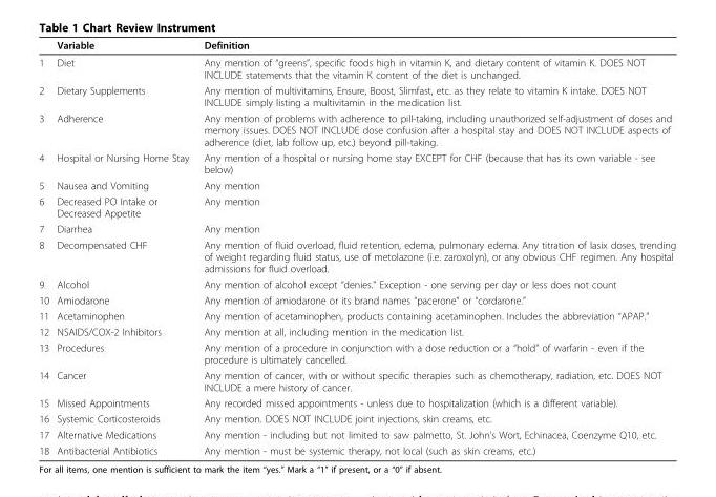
<table><thead><tr><td></td><td>Variable</td><td>Definition</td></tr></thead><tbody><tr><td>1</td><td>Diet</td><td>Any mention of “greens”, specific foods high in vitamin K, and dietary content of vitamin K. DOES NOT INCLUDE statements that the vitamin K content of the diet is unchanged.</td></tr><tr><td>2</td><td>Dietary Supplements</td><td>Any mention of multivitamins, Ensure, Boost, Slimfast, etc. as they relate to vitamin K intake. DOES NOT INCLUDE simply listing a multivitamin in the medication list.</td></tr><tr><td>3</td><td>Adherence</td><td>Any mention of problems with adherence to pill-taking, including unauthorized self-adjustment of doses and memory issues. DOES NOT INCLUDE dose confusion after a hospital stay and DOES NOT INCLUDE aspects of adherence (diet, lab follow up, etc.) beyond pill-taking.</td></tr><tr><td>4</td><td>Hospital or Nursing Home Stay</td><td>Any mention of a hospital or nursing home stay EXCEPT for CHF (because that has its own variable - see below)</td></tr><tr><td>5</td><td>Nausea and Vomiting</td><td>Any mention</td></tr><tr><td>6</td><td>Decreased PO Intake or Decreased Appetite</td><td>Any mention</td></tr><tr><td>7</td><td>Diarrhea</td><td>Any mention</td></tr><tr><td>8</td><td>Decompensated CHF</td><td>Any mention of fluid overload, fluid retention, edema, pulmonary edema. Any titration of lasix doses, trending of weight regarding fluid status, use of metolazone (i.e. zaroxolyn), or any obvious CHF regimen. Any hospital admissions for fluid overload.</td></tr><tr><td>9</td><td>Alcohol</td><td>Any mention of alcohol except “denies.” Exception - one serving per day or less does not count</td></tr><tr><td>10</td><td>Amiodarone</td><td>Any mention of amiodarone or its brand names “pacerone” or “cordarone.”</td></tr><tr><td>11</td><td>Acetaminophen</td><td>Any mention of acetaminophen, products containing acetaminophen. Includes the abbreviation “APAP.”</td></tr><tr><td>12</td><td>NSAIDS/COX-2 Inhibitors</td><td>Any mention at all, including mention in the medication list.</td></tr><tr><td>13</td><td>Procedures</td><td>Any mention of a procedure in conjunction with a dose reduction or a “hold” of warfarin - even if the procedure is ultimately cancelled.</td></tr><tr><td>14</td><td>Cancer</td><td>Any mention of cancer, with or without specific therapies such as chemotherapy, radiation, etc. DOES NOT INCLUDE a mere history of cancer.</td></tr><tr><td>15</td><td>Missed Appointments</td><td>Any recorded missed appointments - unless due to hospitalization (which is a different variable).</td></tr><tr><td>16</td><td>Systemic Corticosteroids</td><td>Any mention. DOES NOT INCLUDE joint injections, skin creams, etc.</td></tr><tr><td>17</td><td>Alternative Medications</td><td>Any mention - including but not limited to saw palmetto, St. John’s Wort, Echinacea, Coenzyme Q10, etc.</td></tr><tr><td>18</td><td>Antibacterial Antibiotics</td><td>Any mention - must be systemic therapy, not local (such as skin creams, etc.)</td></tr></tbody></table>